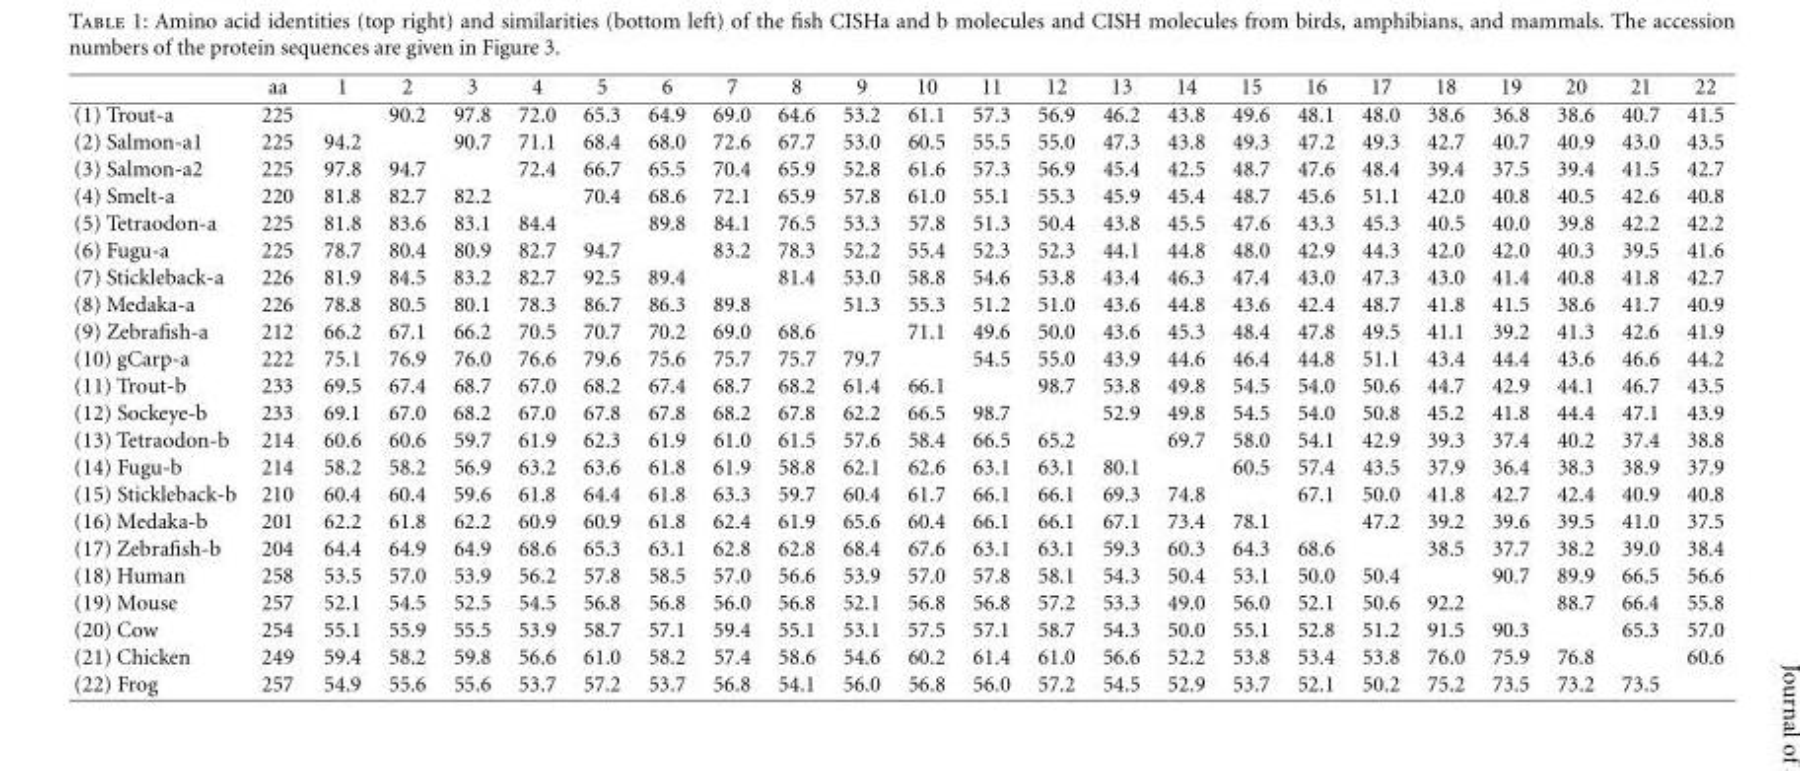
<table><thead><tr><td></td><td>aa</td><td>1</td><td>2</td><td>3</td><td>4</td><td>5</td><td>6</td><td>7</td><td>8</td><td>9</td><td>10</td><td>11</td><td>12</td><td>13</td><td>14</td><td>15</td><td>16</td><td>17</td><td>18</td><td>19</td><td>20</td><td>21</td><td>22</td></tr></thead><tbody><tr><td>(1) Trout-a</td><td>225</td><td></td><td>90.2</td><td>97.8</td><td>72.0</td><td>65.3</td><td>64.9</td><td>69.0</td><td>64.6</td><td>53.2</td><td>61.1</td><td>57.3</td><td>56.9</td><td>46.2</td><td>43.8</td><td>49.6</td><td>48.1</td><td>48.0</td><td>38.6</td><td>36.8</td><td>38.6</td><td>40.7</td><td>41.5</td></tr><tr><td>(2) Salmon-a1</td><td>225</td><td>94.2</td><td></td><td>90.7</td><td>71.1</td><td>68.4</td><td>68.0</td><td>72.6</td><td>67.7</td><td>53.0</td><td>60.5</td><td>55.5</td><td>55.0</td><td>47.3</td><td>43.8</td><td>49.3</td><td>47.2</td><td>49.3</td><td>42.7</td><td>40.7</td><td>40.9</td><td>43.0</td><td>43.5</td></tr><tr><td>(3) Salmon-a2</td><td>225</td><td>97.8</td><td>94.7</td><td></td><td>72.4</td><td>66.7</td><td>65.5</td><td>70.4</td><td>65.9</td><td>52.8</td><td>61.6</td><td>57.3</td><td>56.9</td><td>45.4</td><td>42.5</td><td>48.7</td><td>47.6</td><td>48.4</td><td>39.4</td><td>37.5</td><td>39.4</td><td>41.5</td><td>42.7</td></tr><tr><td>(4) Smelt-a</td><td>220</td><td>81.8</td><td>82.7</td><td>82.2</td><td></td><td>70.4</td><td>68.6</td><td>72.1</td><td>65.9</td><td>57.8</td><td>61.0</td><td>55.1</td><td>55.3</td><td>45.9</td><td>45.4</td><td>48.7</td><td>45.6</td><td>51.1</td><td>42.0</td><td>40.8</td><td>40.5</td><td>42.6</td><td>40.8</td></tr><tr><td>(5) Tetraodon-a</td><td>225</td><td>81.8</td><td>83.6</td><td>83.1</td><td>84.4</td><td></td><td>89.8</td><td>84.1</td><td>76.5</td><td>53.3</td><td>57.8</td><td>51.3</td><td>50.4</td><td>43.8</td><td>45.5</td><td>47.6</td><td>43.3</td><td>45.3</td><td>40.5</td><td>40.0</td><td>39.8</td><td>42.2</td><td>42.2</td></tr><tr><td>(6) Fugu-a</td><td>225</td><td>78.7</td><td>80.4</td><td>80.9</td><td>82.7</td><td>94.7</td><td></td><td>83.2</td><td>78.3</td><td>52.2</td><td>55.4</td><td>52.3</td><td>52.3</td><td>44.1</td><td>44.8</td><td>48.0</td><td>42.9</td><td>44.3</td><td>42.0</td><td>42.0</td><td>40.3</td><td>39.5</td><td>41.6</td></tr><tr><td>(7) Stickleback-a</td><td>226</td><td>81.9</td><td>84.5</td><td>83.2</td><td>82.7</td><td>92.5</td><td>89.4</td><td></td><td>81.4</td><td>53.0</td><td>58.8</td><td>54.6</td><td>53.8</td><td>43.4</td><td>46.3</td><td>47.4</td><td>43.0</td><td>47.3</td><td>43.0</td><td>41.4</td><td>40.8</td><td>41.8</td><td>42.7</td></tr><tr><td>(8) Medaka-a</td><td>226</td><td>78.8</td><td>80.5</td><td>80.1</td><td>78.3</td><td>86.7</td><td>86.3</td><td>89.8</td><td></td><td>51.3</td><td>55.3</td><td>51.2</td><td>51.0</td><td>43.6</td><td>44.8</td><td>43.6</td><td>42.4</td><td>48.7</td><td>41.8</td><td>41.5</td><td>38.6</td><td>41.7</td><td>40.9</td></tr><tr><td>(9) Zebrafish-a</td><td>212</td><td>66.2</td><td>67.1</td><td>66.2</td><td>70.5</td><td>70.7</td><td>70.2</td><td>69.0</td><td>68.6</td><td></td><td>71.1</td><td>49.6</td><td>50.0</td><td>43.6</td><td>45.3</td><td>48.4</td><td>47.8</td><td>49.5</td><td>41.1</td><td>39.2</td><td>41.3</td><td>42.6</td><td>41.9</td></tr><tr><td>(10) gCarp-a</td><td>222</td><td>75.1</td><td>76.9</td><td>76.0</td><td>76.6</td><td>79.6</td><td>75.6</td><td>75.7</td><td>75.7</td><td>79.7</td><td></td><td>54.5</td><td>55.0</td><td>43.9</td><td>44.6</td><td>46.4</td><td>44.8</td><td>51.1</td><td>43.4</td><td>44.4</td><td>43.6</td><td>46.6</td><td>44.2</td></tr><tr><td>(11) Trout-b</td><td>233</td><td>69.5</td><td>67.4</td><td>68.7</td><td>67.0</td><td>68.2</td><td>67.4</td><td>68.7</td><td>68.2</td><td>61.4</td><td>66.1</td><td></td><td>98.7</td><td>53.8</td><td>49.8</td><td>54.5</td><td>54.0</td><td>50.6</td><td>44.7</td><td>42.9</td><td>44.1</td><td>46.7</td><td>43.5</td></tr><tr><td>(12) Sockeye-b</td><td>233</td><td>69.1</td><td>67.0</td><td>68.2</td><td>67.0</td><td>67.8</td><td>67.8</td><td>68.2</td><td>67.8</td><td>62.2</td><td>66.5</td><td>98.7</td><td></td><td>52.9</td><td>49.8</td><td>54.5</td><td>54.0</td><td>50.8</td><td>45.2</td><td>41.8</td><td>44.4</td><td>47.1</td><td>43.9</td></tr><tr><td>(13) Tetraodon-b</td><td>214</td><td>60.6</td><td>60.6</td><td>59.7</td><td>61.9</td><td>62.3</td><td>61.9</td><td>61.0</td><td>61.5</td><td>57.6</td><td>58.4</td><td>66.5</td><td>65.2</td><td></td><td>69.7</td><td>58.0</td><td>54.1</td><td>42.9</td><td>39.3</td><td>37.4</td><td>40.2</td><td>37.4</td><td>38.8</td></tr><tr><td>(14) Fugu-b</td><td>214</td><td>58.2</td><td>58.2</td><td>56.9</td><td>63.2</td><td>63.6</td><td>61.8</td><td>61.9</td><td>58.8</td><td>62.1</td><td>62.6</td><td>63.1</td><td>63.1</td><td>80.1</td><td></td><td>60.5</td><td>57.4</td><td>43.5</td><td>37.9</td><td>36.4</td><td>38.3</td><td>38.9</td><td>37.9</td></tr><tr><td>(15) Stickleback-b</td><td>210</td><td>60.4</td><td>60.4</td><td>59.6</td><td>61.8</td><td>64.4</td><td>61.8</td><td>63.3</td><td>59.7</td><td>60.4</td><td>61.7</td><td>66.1</td><td>66.1</td><td>69.3</td><td>74.8</td><td></td><td>67.1</td><td>50.0</td><td>41.8</td><td>42.7</td><td>42.4</td><td>40.9</td><td>40.8</td></tr><tr><td>(16) Medaka-b</td><td>201</td><td>62.2</td><td>61.8</td><td>62.2</td><td>60.9</td><td>60.9</td><td>61.8</td><td>62.4</td><td>61.9</td><td>65.6</td><td>60.4</td><td>66.1</td><td>66.1</td><td>67.1</td><td>73.4</td><td>78.1</td><td></td><td>47.2</td><td>39.2</td><td>39.6</td><td>39.5</td><td>41.0</td><td>37.5</td></tr><tr><td>(17) Zebrafish-b</td><td>204</td><td>64.4</td><td>64.9</td><td>64.9</td><td>68.6</td><td>65.3</td><td>63.1</td><td>62.8</td><td>62.8</td><td>68.4</td><td>67.6</td><td>63.1</td><td>63.1</td><td>59.3</td><td>60.3</td><td>64.3</td><td>68.6</td><td></td><td>38.5</td><td>37.7</td><td>38.2</td><td>39.0</td><td>38.4</td></tr><tr><td>(18) Human</td><td>258</td><td>53.5</td><td>57.0</td><td>53.9</td><td>56.2</td><td>57.8</td><td>58.5</td><td>57.0</td><td>56.6</td><td>53.9</td><td>57.0</td><td>57.8</td><td>58.1</td><td>54.3</td><td>50.4</td><td>53.1</td><td>50.0</td><td>50.4</td><td></td><td>90.7</td><td>89.9</td><td>66.5</td><td>56.6</td></tr><tr><td>(19) Mouse</td><td>257</td><td>52.1</td><td>54.5</td><td>52.5</td><td>54.5</td><td>56.8</td><td>56.8</td><td>56.0</td><td>56.8</td><td>52.1</td><td>56.8</td><td>56.8</td><td>57.2</td><td>53.3</td><td>49.0</td><td>56.0</td><td>52.1</td><td>50.6</td><td>92.2</td><td></td><td>88.7</td><td>66.4</td><td>55.8</td></tr><tr><td>(20) Cow</td><td>254</td><td>55.1</td><td>55.9</td><td>55.5</td><td>53.9</td><td>58.7</td><td>57.1</td><td>59.4</td><td>55.1</td><td>53.1</td><td>57.5</td><td>57.1</td><td>58.7</td><td>54.3</td><td>50.0</td><td>55.1</td><td>52.8</td><td>51.2</td><td>91.5</td><td>90.3</td><td></td><td>65.3</td><td>57.0</td></tr><tr><td>(21) Chicken</td><td>249</td><td>59.4</td><td>58.2</td><td>59.8</td><td>56.6</td><td>61.0</td><td>58.2</td><td>57.4</td><td>58.6</td><td>54.6</td><td>60.2</td><td>61.4</td><td>61.0</td><td>56.6</td><td>52.2</td><td>53.8</td><td>53.4</td><td>53.8</td><td>76.0</td><td>75.9</td><td>76.8</td><td></td><td>60.6</td></tr><tr><td>(22) Frog</td><td>257</td><td>54.9</td><td>55.6</td><td>55.6</td><td>53.7</td><td>57.2</td><td>53.7</td><td>56.8</td><td>54.1</td><td>56.0</td><td>56.8</td><td>56.0</td><td>57.2</td><td>54.5</td><td>52.9</td><td>53.7</td><td>52.1</td><td>50.2</td><td>75.2</td><td>73.5</td><td>73.2</td><td>73.5</td><td></td></tr></tbody></table>